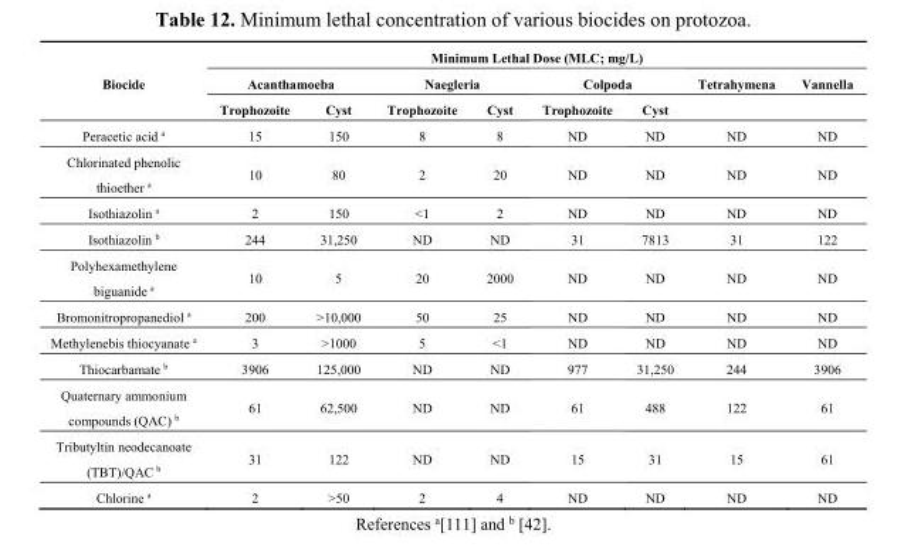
<table><thead><tr><td rowspan="3">Biocide</td><td colspan="8">Minimum Lethal Dose (MLC; mg/L)</td></tr><tr><td colspan="2">Acanthamoeba</td><td colspan="2">Naegleria</td><td colspan="2">Colpoda</td><td rowspan="2">Tetrahymena</td><td rowspan="2">Vannella</td></tr><tr><td>Trophozoite</td><td>Cyst</td><td>Trophozoite</td><td>Cyst</td><td>Trophozoite</td><td>Cyst</td></tr></thead><tbody><tr><td>Peracetic acid <sup>a</sup></td><td>15</td><td>150</td><td>8</td><td>8</td><td>ND</td><td>ND</td><td>ND</td><td>ND</td></tr><tr><td>Chlorinated phenolic thioether <sup>a</sup></td><td>10</td><td>80</td><td>2</td><td>20</td><td>ND</td><td>ND</td><td>ND</td><td>ND</td></tr><tr><td>Isothiazolin <sup>a</sup></td><td>2</td><td>150</td><td>&lt;1</td><td>2</td><td>ND</td><td>ND</td><td>ND</td><td>ND</td></tr><tr><td>Isothiazolin <sup>b</sup></td><td>244</td><td>31,250</td><td>ND</td><td>ND</td><td>31</td><td>7813</td><td>31</td><td>122</td></tr><tr><td>Polyhexamethylene biguanide <sup>a</sup></td><td>10</td><td>5</td><td>20</td><td>2000</td><td>ND</td><td>ND</td><td>ND</td><td>ND</td></tr><tr><td>Bromonitropropanediol <sup>a</sup></td><td>200</td><td>&gt;10,000</td><td>50</td><td>25</td><td>ND</td><td>ND</td><td>ND</td><td>ND</td></tr><tr><td>Methylenebis thiocyanate <sup>a</sup></td><td>3</td><td>&gt;1000</td><td>5</td><td>&lt;1</td><td>ND</td><td>ND</td><td>ND</td><td>ND</td></tr><tr><td>Thiocarbamate <sup>b</sup></td><td>3906</td><td>125,000</td><td>ND</td><td>ND</td><td>977</td><td>31,250</td><td>244</td><td>3906</td></tr><tr><td>Quaternary ammonium compounds (QAC) <sup>b</sup></td><td>61</td><td>62,500</td><td>ND</td><td>ND</td><td>61</td><td>488</td><td>122</td><td>61</td></tr><tr><td>Tributyltin neodecanoate (TBT)/QAC <sup>b</sup></td><td>31</td><td>122</td><td>ND</td><td>ND</td><td>15</td><td>31</td><td>15</td><td>61</td></tr><tr><td>Chlorine <sup>a</sup></td><td>2</td><td>&gt;50</td><td>2</td><td>4</td><td>ND</td><td>ND</td><td>ND</td><td>ND</td></tr></tbody></table>